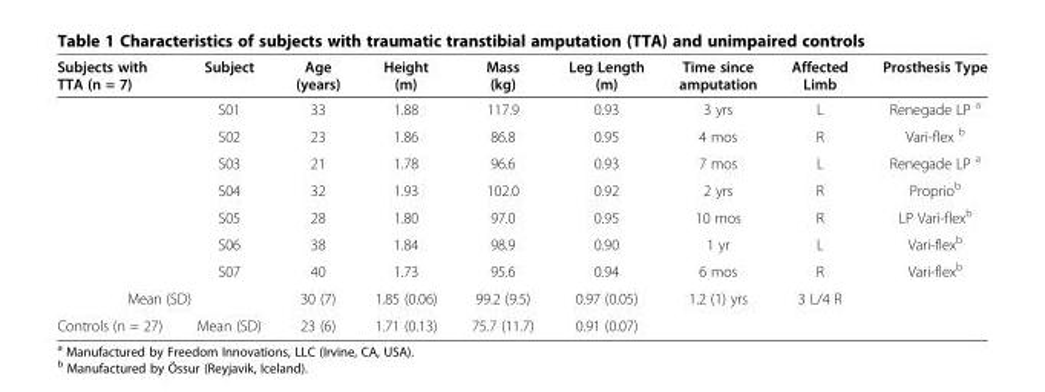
<table><thead><tr><td>Subjects with TTA (n = 7)</td><td>Subject</td><td>Age (years)</td><td>Height (m)</td><td>Mass (kg)</td><td>Leg Length (m)</td><td>Time since amputation</td><td>Affected Limb</td><td>Prosthesis Type</td></tr></thead><tbody><tr><td></td><td>S01</td><td>33</td><td>1.88</td><td>117.9</td><td>0.93</td><td>3 yrs</td><td>L</td><td>Renegade LP <sup>a</sup></td></tr><tr><td></td><td>S02</td><td>23</td><td>1.86</td><td>86.8</td><td>0.95</td><td>4 mos</td><td>R</td><td>Vari-flex <sup>b</sup></td></tr><tr><td></td><td>S03</td><td>21</td><td>1.78</td><td>96.6</td><td>0.93</td><td>7 mos</td><td>L</td><td>Renegade LP <sup>a</sup></td></tr><tr><td></td><td>S04</td><td>32</td><td>1.93</td><td>102.0</td><td>0.92</td><td>2 yrs</td><td>R</td><td>Proprio<sup>b</sup></td></tr><tr><td></td><td>S05</td><td>28</td><td>1.80</td><td>97.0</td><td>0.95</td><td>10 mos</td><td>R</td><td>LP Vari-flex<sup>b</sup></td></tr><tr><td></td><td>S06</td><td>38</td><td>1.84</td><td>98.9</td><td>0.90</td><td>1 yr</td><td>L</td><td>Vari-flex<sup>b</sup></td></tr><tr><td></td><td>S07</td><td>40</td><td>1.73</td><td>95.6</td><td>0.94</td><td>6 mos</td><td>R</td><td>Vari-flex<sup>b</sup></td></tr><tr><td colspan="2">Mean (SD)</td><td>30 (7)</td><td>1.85 (0.06)</td><td>99.2 (9.5)</td><td>0.97 (0.05)</td><td>1.2 (1) yrs</td><td>3 L/4 R</td><td></td></tr><tr><td>Controls (n = 27)</td><td>Mean (SD)</td><td>23 (6)</td><td>1.71 (0.13)</td><td>75.7 (11.7)</td><td>0.91 (0.07)</td><td></td><td></td><td></td></tr></tbody></table>